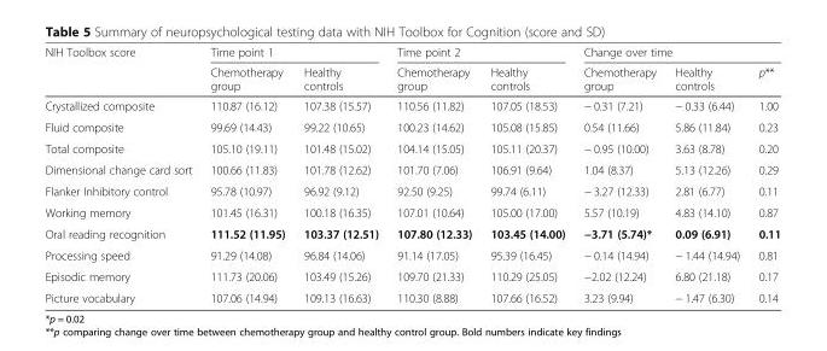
<table><thead><tr><td rowspan="2">NIH Toolbox score</td><td colspan="2">Time point 1</td><td colspan="2">Time point 2</td><td colspan="3">Change over time</td></tr><tr><td>Chemotherapy group</td><td>Healthy controls</td><td>Chemotherapy group</td><td>Healthy controls</td><td>Chemotherapy group</td><td>Healthy controls</td><td>p**</td></tr></thead><tbody><tr><td>Crystallized composite</td><td>110.87 (16.12)</td><td>107.38 (15.57)</td><td>110.56 (11.82)</td><td>107.05 (18.53)</td><td>− 0.31 (7.21)</td><td>− 0.33 (6.44)</td><td>1.00</td></tr><tr><td>Fluid composite</td><td>99.69 (14.43)</td><td>99.22 (10.65)</td><td>100.23 (14.62)</td><td>105.08 (15.85)</td><td>0.54 (11.66)</td><td>5.86 (11.84)</td><td>0.23</td></tr><tr><td>Total composite</td><td>105.10 (19.11)</td><td>101.48 (15.02)</td><td>104.14 (15.05)</td><td>105.11 (20.37)</td><td>− 0.95 (10.00)</td><td>3.63 (8.78)</td><td>0.20</td></tr><tr><td>Dimensional change card sort</td><td>100.66 (11.83)</td><td>101.78 (12.62)</td><td>101.70 (7.06)</td><td>106.91 (9.64)</td><td>1.04 (8.37)</td><td>5.13 (12.26)</td><td>0.29</td></tr><tr><td>Flanker Inhibitory control</td><td>95.78 (10.97)</td><td>96.92 (9.12)</td><td>92.50 (9.25)</td><td>99.74 (6.11)</td><td>− 3.27 (12.33)</td><td>2.81 (6.77)</td><td>0.11</td></tr><tr><td>Working memory</td><td>101.45 (16.31)</td><td>100.18 (16.35)</td><td>107.01 (10.64)</td><td>105.00 (17.00)</td><td>5.57 (10.19)</td><td>4.83 (14.10)</td><td>0.87</td></tr><tr><td>Oral reading recognition</td><td>111.52 (11.95)</td><td>103.37 (12.51)</td><td>107.80 (12.33)</td><td>103.45 (14.00)</td><td>−3.71 (5.74)*</td><td>0.09 (6.91)</td><td>0.11</td></tr><tr><td>Processing speed</td><td>91.29 (14.08)</td><td>96.84 (14.06)</td><td>91.14 (17.05)</td><td>95.39 (16.45)</td><td>− 0.14 (14.94)</td><td>− 1.44 (14.94)</td><td>0.81</td></tr><tr><td>Episodic memory</td><td>111.73 (20.06)</td><td>103.49 (15.26)</td><td>109.70 (21.33)</td><td>110.29 (25.05)</td><td>−2.02 (12.24)</td><td>6.80 (21.18)</td><td>0.17</td></tr><tr><td>Picture vocabulary</td><td>107.06 (14.94)</td><td>109.13 (16.63)</td><td>110.30 (8.88)</td><td>107.66 (16.52)</td><td>3.23 (9.94)</td><td>− 1.47 (6.30)</td><td>0.14</td></tr></tbody></table>